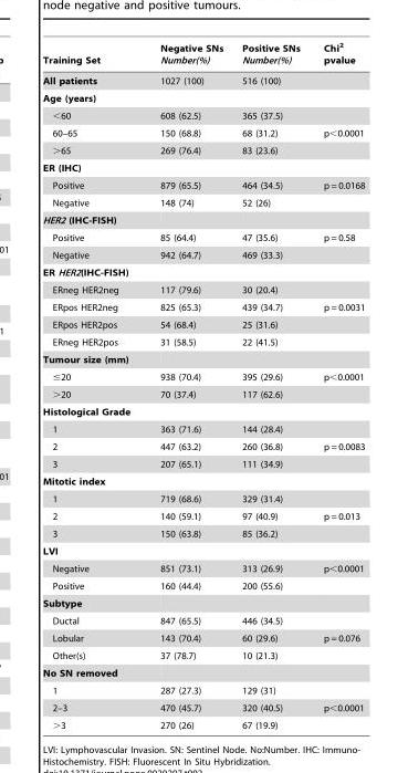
<table><thead><tr><td>Training Set</td><td>Negative SNs Number(%)</td><td>Positive SNs Number(%)</td><td>Chi<sup>2</sup> pvalue</td></tr></thead><tbody><tr><td>All patients</td><td>1027 (100)</td><td>516 (100)</td><td></td></tr><tr><td colspan="4">Age (years)</td></tr><tr><td>&lt;60</td><td>608 (62.5)</td><td>365 (37.5)</td><td></td></tr><tr><td>60–65</td><td>150 (68.8)</td><td>68 (31.2)</td><td>p&lt;0.0001</td></tr><tr><td>&gt;65</td><td>269 (76.4)</td><td>83 (23.6)</td><td></td></tr><tr><td colspan="4">ER (IHC)</td></tr><tr><td>Positive</td><td>879 (65.5)</td><td>464 (34.5)</td><td>p = 0.0168</td></tr><tr><td>Negative</td><td>148 (74)</td><td>52 (26)</td><td></td></tr><tr><td colspan="4">HER2 (IHC-FISH)</td></tr><tr><td>Positive</td><td>85 (64.4)</td><td>47 (35.6)</td><td>p = 0.58</td></tr><tr><td>Negative</td><td>942 (64.7)</td><td>469 (33.3)</td><td></td></tr><tr><td colspan="4">ER HER2(IHC-FISH)</td></tr><tr><td>ERneg HER2neg</td><td>117 (79.6)</td><td>30 (20.4)</td><td></td></tr><tr><td>ERpos HER2neg</td><td>825 (65.3)</td><td>439 (34.7)</td><td>p = 0.0031</td></tr><tr><td>ERpos HER2pos</td><td>54 (68.4)</td><td>25 (31.6)</td><td></td></tr><tr><td>ERneg HER2pos</td><td>31 (58.5)</td><td>22 (41.5)</td><td></td></tr><tr><td colspan="4">Tumour size (mm)</td></tr><tr><td>≤20</td><td>938 (70.4)</td><td>395 (29.6)</td><td>p&lt;0.0001</td></tr><tr><td>&gt;20</td><td>70 (37.4)</td><td>117 (62.6)</td><td></td></tr><tr><td colspan="4">Histological Grade</td></tr><tr><td>1</td><td>363 (71.6)</td><td>144 (28.4)</td><td></td></tr><tr><td>2</td><td>447 (63.2)</td><td>260 (36.8)</td><td>p = 0.0083</td></tr><tr><td>3</td><td>207 (65.1)</td><td>111 (34.9)</td><td></td></tr><tr><td colspan="4">Mitotic index</td></tr><tr><td>1</td><td>719 (68.6)</td><td>329 (31.4)</td><td></td></tr><tr><td>2</td><td>140 (59.1)</td><td>97 (40.9)</td><td>p = 0.013</td></tr><tr><td>3</td><td>150 (63.8)</td><td>85 (36.2)</td><td></td></tr><tr><td colspan="4">LVI</td></tr><tr><td>Negative</td><td>851 (73.1)</td><td>313 (26.9)</td><td>p&lt;0.0001</td></tr><tr><td>Positive</td><td>160 (44.4)</td><td>200 (55.6)</td><td></td></tr><tr><td colspan="4">Subtype</td></tr><tr><td>Ductal</td><td>847 (65.5)</td><td>446 (34.5)</td><td></td></tr><tr><td>Lobular</td><td>143 (70.4)</td><td>60 (29.6)</td><td>p = 0.076</td></tr><tr><td>Other(s)</td><td>37 (78.7)</td><td>10 (21.3)</td><td></td></tr><tr><td colspan="4">No SN removed</td></tr><tr><td>1</td><td>287 (27.3)</td><td>129 (31)</td><td></td></tr><tr><td>2–3</td><td>470 (45.7)</td><td>320 (40.5)</td><td>p&lt;0.0001</td></tr><tr><td>&gt;3</td><td>270 (26)</td><td>67 (19.9)</td><td></td></tr></tbody></table>